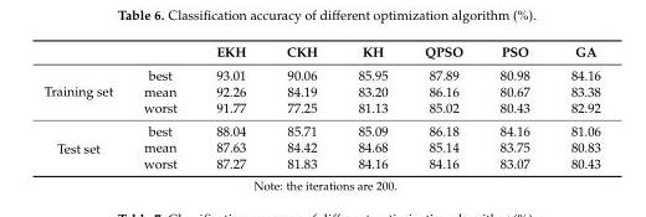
<table><thead><tr><td></td><td></td><td>EKH</td><td>CKH</td><td>KH</td><td>QPSO</td><td>PSO</td><td>GA</td></tr></thead><tbody><tr><td rowspan="3">Training set</td><td>best</td><td>93.01</td><td>90.06</td><td>85.95</td><td>87.89</td><td>80.98</td><td>84.16</td></tr><tr><td>mean</td><td>92.26</td><td>84.19</td><td>83.20</td><td>86.16</td><td>80.67</td><td>83.38</td></tr><tr><td>worst</td><td>91.77</td><td>77.25</td><td>81.13</td><td>85.02</td><td>80.43</td><td>82.92</td></tr><tr><td rowspan="3">Test set</td><td>best</td><td>88.04</td><td>85.71</td><td>85.09</td><td>86.18</td><td>84.16</td><td>81.06</td></tr><tr><td>mean</td><td>87.63</td><td>84.42</td><td>84.68</td><td>85.14</td><td>83.75</td><td>80.83</td></tr><tr><td>worst</td><td>87.27</td><td>81.83</td><td>84.16</td><td>84.16</td><td>83.07</td><td>80.43</td></tr></tbody></table>